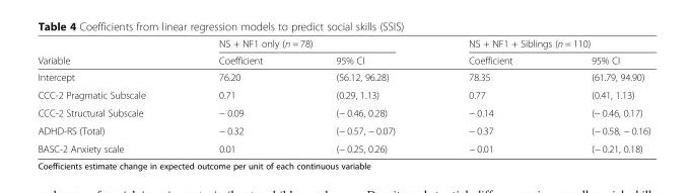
<table><thead><tr><td rowspan="2">Variable</td><td colspan="2">NS + NF1 only (n = 78)</td><td colspan="2">NS + NF1 + Siblings (n = 110)</td></tr><tr><td>Coefficient</td><td>95% CI</td><td>Coefficient</td><td>95% CI</td></tr></thead><tbody><tr><td>Intercept</td><td>76.20</td><td>(56.12, 96.28)</td><td>78.35</td><td>(61.79, 94.90)</td></tr><tr><td>CCC-2 Pragmatic Subscale</td><td>0.71</td><td>(0.29, 1.13)</td><td>0.77</td><td>(0.41, 1.13)</td></tr><tr><td>CCC-2 Structural Subscale</td><td>− 0.09</td><td>(− 0.46, 0.28)</td><td>− 0.14</td><td>(− 0.46, 0.17)</td></tr><tr><td>ADHD-RS (Total)</td><td>− 0.32</td><td>(− 0.57, − 0.07)</td><td>− 0.37</td><td>(− 0.58, − 0.16)</td></tr><tr><td>BASC-2 Anxiety scale</td><td>0.01</td><td>(− 0.25, 0.26)</td><td>− 0.01</td><td>(− 0.21, 0.18)</td></tr></tbody></table>